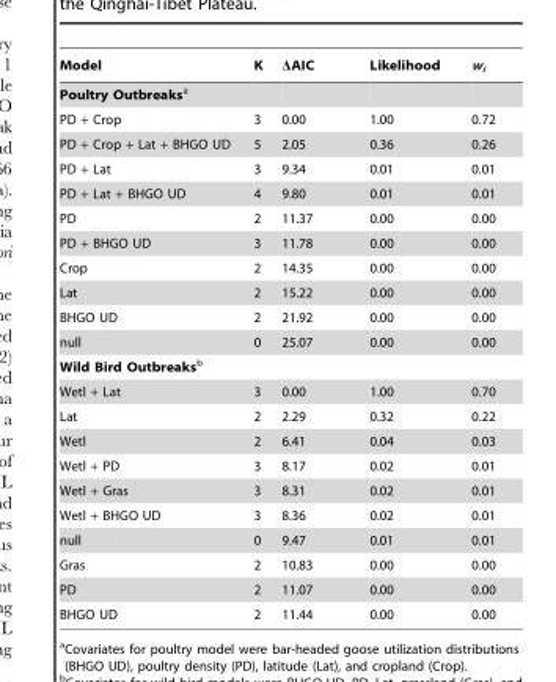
<table><thead><tr><td>Model</td><td>K</td><td>ΔAIC</td><td>Likelihood</td><td>w<sub>i</sub></td></tr></thead><tbody><tr><td colspan="5">Poultry Outbreaksa</td></tr><tr><td>PD + Crop</td><td>3</td><td>0.00</td><td>1.00</td><td>0.72</td></tr><tr><td>PD + Crop + Lat + BHGO UD</td><td>5</td><td>2.05</td><td>0.36</td><td>0.26</td></tr><tr><td>PD + Lat</td><td>3</td><td>9.34</td><td>0.01</td><td>0.01</td></tr><tr><td>PD + Lat + BHGO UD</td><td>4</td><td>9.80</td><td>0.01</td><td>0.01</td></tr><tr><td>PD</td><td>2</td><td>11.37</td><td>0.00</td><td>0.00</td></tr><tr><td>PD + BHGO UD</td><td>3</td><td>11.78</td><td>0.00</td><td>0.00</td></tr><tr><td>Crop</td><td>2</td><td>14.35</td><td>0.00</td><td>0.00</td></tr><tr><td>Lat</td><td>2</td><td>15.22</td><td>0.00</td><td>0.00</td></tr><tr><td>BHGO UD</td><td>2</td><td>21.92</td><td>0.00</td><td>0.00</td></tr><tr><td>null</td><td>0</td><td>25.07</td><td>0.00</td><td>0.00</td></tr><tr><td colspan="5">Wild Bird Outbreaksb</td></tr><tr><td>Wetl + Lat</td><td>3</td><td>0.00</td><td>1.00</td><td>0.70</td></tr><tr><td>Lat</td><td>2</td><td>2.29</td><td>0.32</td><td>0.22</td></tr><tr><td>Wetl</td><td>2</td><td>6.41</td><td>0.04</td><td>0.03</td></tr><tr><td>Wetl + PD</td><td>3</td><td>8.17</td><td>0.02</td><td>0.01</td></tr><tr><td>Wetl + Gras</td><td>3</td><td>8.31</td><td>0.02</td><td>0.01</td></tr><tr><td>Wetl + BHGO UD</td><td>3</td><td>8.36</td><td>0.02</td><td>0.01</td></tr><tr><td>null</td><td>0</td><td>9.47</td><td>0.01</td><td>0.01</td></tr><tr><td>Gras</td><td>2</td><td>10.83</td><td>0.00</td><td>0.00</td></tr><tr><td>PD</td><td>2</td><td>11.07</td><td>0.00</td><td>0.00</td></tr><tr><td>BHGO UD</td><td>2</td><td>11.44</td><td>0.00</td><td>0.00</td></tr></tbody></table>